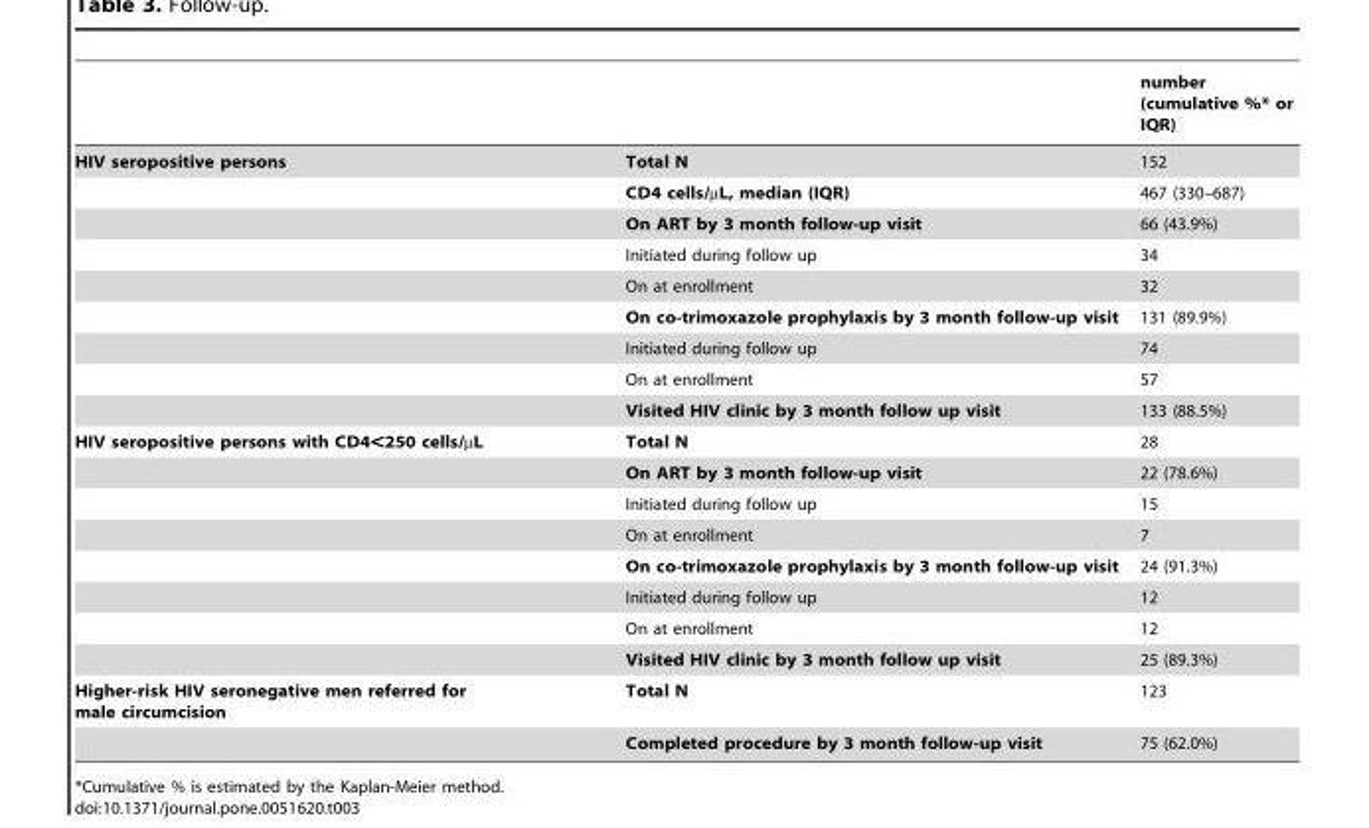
<table><thead><tr><td></td><td></td><td>number (cumulative %* or IQR)</td></tr></thead><tbody><tr><td rowspan="9">HIV seropositive persons</td><td>Total N</td><td>152</td></tr><tr><td>CD4 cells/µL, median (IQR)</td><td>467 (330–687)</td></tr><tr><td>On ART by 3 month follow-up visit</td><td>66 (43.9%)</td></tr><tr><td>Initiated during follow up</td><td>34</td></tr><tr><td>On at enrollment</td><td>32</td></tr><tr><td>On co-trimoxazole prophylaxis by 3 month follow-up visit</td><td>131 (89.9%)</td></tr><tr><td>Initiated during follow up</td><td>74</td></tr><tr><td>On at enrollment</td><td>57</td></tr><tr><td>Visited HIV clinic by 3 month follow up visit</td><td>133 (88.5%)</td></tr><tr><td rowspan="8">HIV seropositive persons with CD4&lt;250 cells/µL</td><td>Total N</td><td>28</td></tr><tr><td>On ART by 3 month follow-up visit</td><td>22 (78.6%)</td></tr><tr><td>Initiated during follow up</td><td>15</td></tr><tr><td>On at enrollment</td><td>7</td></tr><tr><td>On co-trimoxazole prophylaxis by 3 month follow-up visit</td><td>24 (91.3%)</td></tr><tr><td>Initiated during follow up</td><td>12</td></tr><tr><td>On at enrollment</td><td>12</td></tr><tr><td>Visited HIV clinic by 3 month follow up visit</td><td>25 (89.3%)</td></tr><tr><td rowspan="2">Higher-risk HIV seronegative men referred for male circumcision</td><td>Total N</td><td>123</td></tr><tr><td>Completed procedure by 3 month follow-up visit</td><td>75 (62.0%)</td></tr></tbody></table>